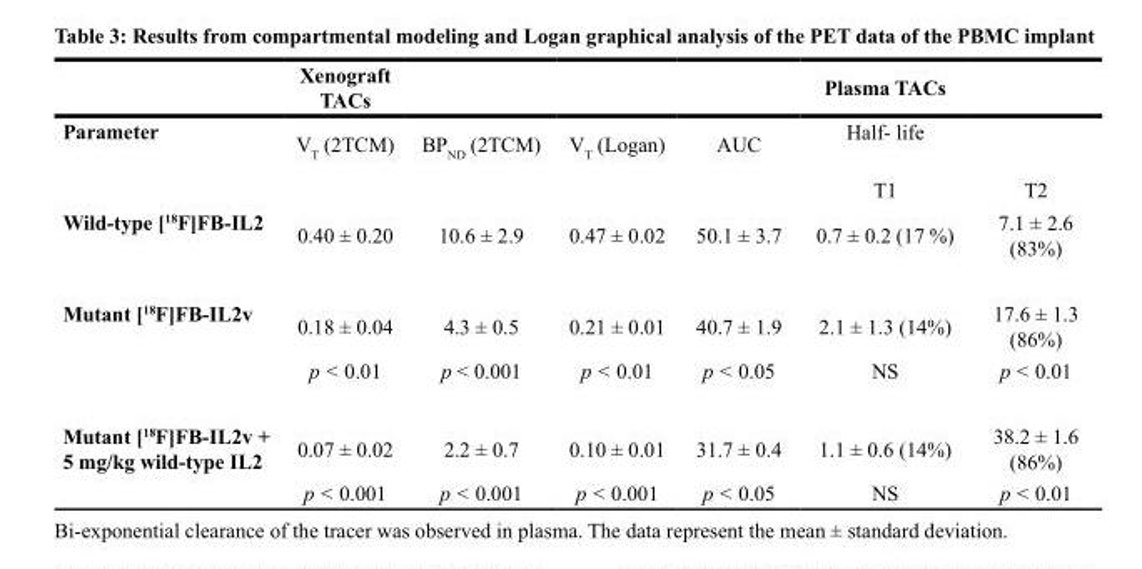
<table><thead><tr><td></td><td>Xenograft TACs</td><td></td><td></td><td></td><td>Plasma TACs</td><td></td></tr></thead><tbody><tr><td rowspan="2">Parameter</td><td>V<sub>T</sub> (2TCM)</td><td>BP<sub>ND</sub> (2TCM)</td><td>V<sub>T</sub> (Logan)</td><td>AUC</td><td>Half- life</td><td></td></tr><tr><td></td><td></td><td></td><td></td><td>T1</td><td>T2</td></tr><tr><td>Wild-type [<sup>18</sup>F]FB-IL2</td><td>0.40 ± 0.20</td><td>10.6 ± 2.9</td><td>0.47 ± 0.02</td><td>50.1 ± 3.7</td><td>0.7 ± 0.2 (17 %)</td><td>7.1 ± 2.6 (83%)</td></tr><tr><td rowspan="2">Mutant [<sup>18</sup>F]FB-IL2v</td><td>0.18 ± 0.04</td><td>4.3 ± 0.5</td><td>0.21 ± 0.01</td><td>40.7 ± 1.9</td><td>2.1 ± 1.3 (14%)</td><td>17.6 ± 1.3 (86%)</td></tr><tr><td>p &lt; 0.01</td><td>p &lt; 0.001</td><td>p &lt; 0.01</td><td>p &lt; 0.05</td><td>NS</td><td>p &lt; 0.01</td></tr><tr><td rowspan="2">Mutant [<sup>18</sup>F]FB-IL2v + 5 mg/kg wild-type IL2</td><td>0.07 ± 0.02</td><td>2.2 ± 0.7</td><td>0.10 ± 0.01</td><td>31.7 ± 0.4</td><td>1.1 ± 0.6 (14%)</td><td>38.2 ± 1.6 (86%)</td></tr><tr><td>p &lt; 0.001</td><td>p &lt; 0.001</td><td>p &lt; 0.001</td><td>p &lt; 0.05</td><td>NS</td><td>p &lt; 0.01</td></tr></tbody></table>